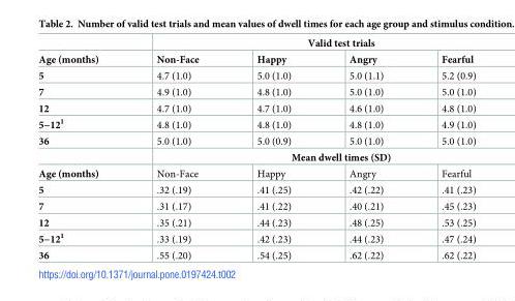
<table><thead><tr><td rowspan="2">Age (months)</td><td colspan="4">Valid test trials</td></tr><tr><td>Non-Face</td><td>Happy</td><td>Angry</td><td>Fearful</td></tr></thead><tbody><tr><td>5</td><td>4.7 (1.0)</td><td>5.0 (1.0)</td><td>5.0 (1.1)</td><td>5.2 (0.9)</td></tr><tr><td>7</td><td>4.9 (1.0)</td><td>4.8 (1.0)</td><td>5.0 (1.0)</td><td>5.0 (1.0)</td></tr><tr><td>12</td><td>4.7 (1.0)</td><td>4.7 (1.0)</td><td>4.6 (1.0)</td><td>4.8 (1.0)</td></tr><tr><td>5−12<sup>1</sup></td><td>4.8 (1.0)</td><td>4.8 (1.0)</td><td>4.8 (1.0)</td><td>4.9 (1.0)</td></tr><tr><td rowspan="2">36</td><td>5.0 (1.0)</td><td>5.0 (0.9)</td><td>5.0 (1.0)</td><td>5.0 (1.0)</td></tr><tr><td colspan="4">Mean dwell times (SD)</td></tr><tr><td>Age (months)</td><td>Non-Face</td><td>Happy</td><td>Angry</td><td>Fearful</td></tr><tr><td>5</td><td>.32 (.19)</td><td>.41 (.25)</td><td>.42 (.22)</td><td>.41 (.23)</td></tr><tr><td>7</td><td>.31 (.17)</td><td>.41 (.22)</td><td>.40 (.21)</td><td>.45 (.23)</td></tr><tr><td>12</td><td>.35 (.21)</td><td>.44 (.23)</td><td>.48 (.25)</td><td>.53 (.25)</td></tr><tr><td>5−12<sup>1</sup></td><td>.33 (.19)</td><td>.42 (.23)</td><td>.44 (.23)</td><td>.47 (.24)</td></tr><tr><td>36</td><td>.55 (.20)</td><td>.54 (.25)</td><td>.62 (.22)</td><td>.62 (.22)</td></tr></tbody></table>